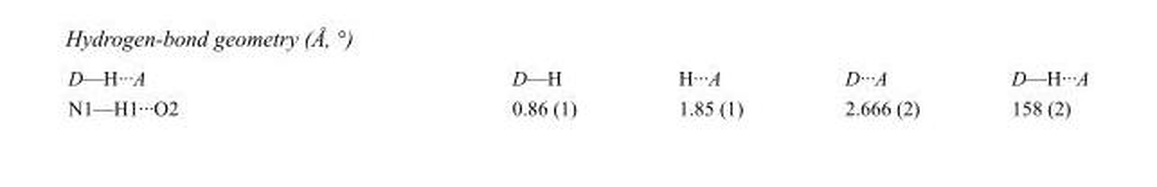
<table><tbody><tr><td>D—H···A</td><td>D—H</td><td>H···A</td><td>D···A</td><td>D—H···A</td></tr><tr><td>N1—H1···O2</td><td>0.86 (1)</td><td>1.85 (1)</td><td>2.666 (2)</td><td>158 (2)</td></tr></tbody></table>